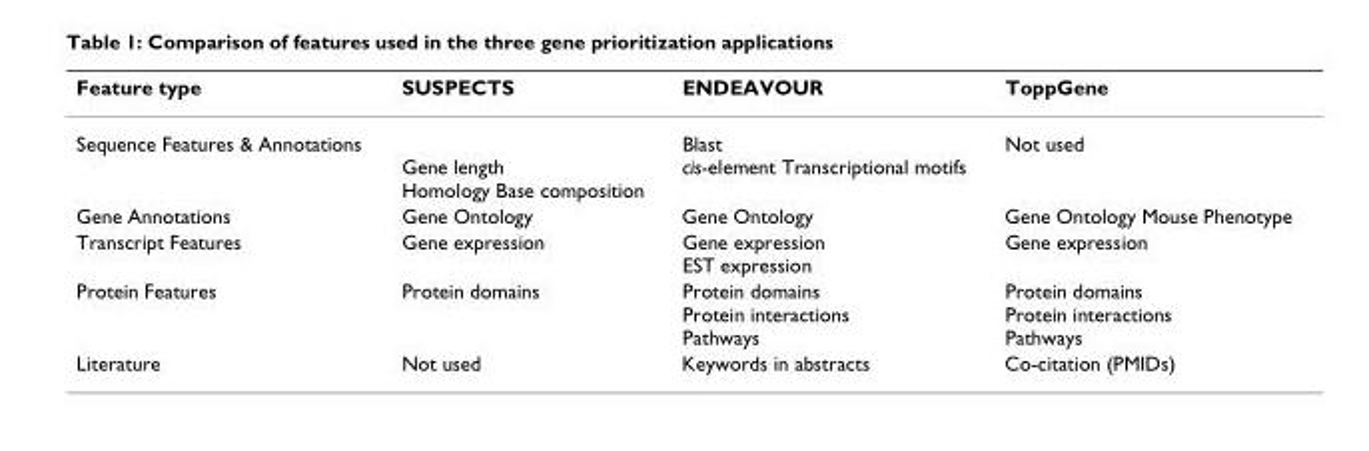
<table><thead><tr><td>Feature type</td><td>SUSPECTS</td><td>ENDEAVOUR</td><td>ToppGene</td></tr></thead><tbody><tr><td>Sequence Features &amp; Annotations</td><td>Gene length Homology Base composition</td><td>Blast cis-element Transcriptional motifs</td><td>Not used</td></tr><tr><td>Gene Annotations</td><td>Gene Ontology</td><td>Gene Ontology</td><td>Gene Ontology Mouse Phenotype</td></tr><tr><td>Transcript Features</td><td>Gene expression</td><td>Gene expression EST expression</td><td>Gene expression</td></tr><tr><td>Protein Features</td><td>Protein domains</td><td>Protein domains Protein interactions Pathways</td><td>Protein domains Protein interactions Pathways</td></tr><tr><td>Literature</td><td>Not used</td><td>Keywords in abstracts</td><td>Co-citation (PMIDs)</td></tr></tbody></table>